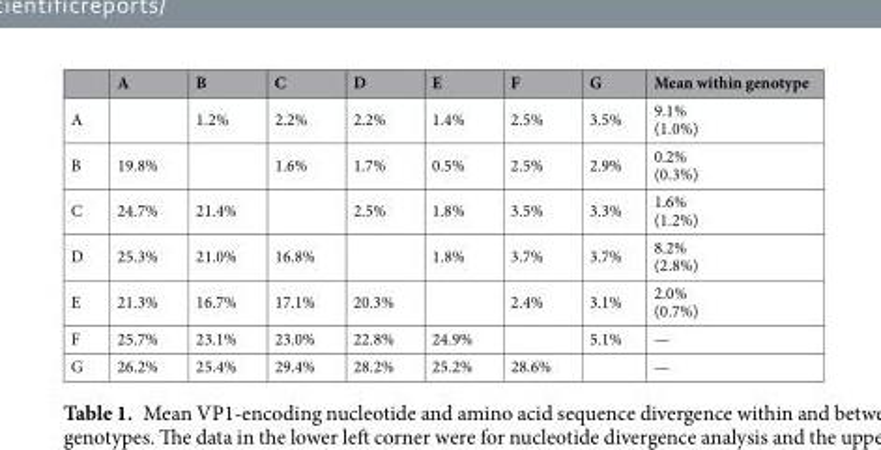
<table><thead><tr><td></td><td>A</td><td>B</td><td>C</td><td>D</td><td>E</td><td>F</td><td>G</td><td>Mean within genotype</td></tr></thead><tbody><tr><td>A</td><td></td><td>1.2%</td><td>2.2%</td><td>2.2%</td><td>1.4%</td><td>2.5%</td><td>3.5%</td><td>9.1% (1.0%)</td></tr><tr><td>B</td><td>19.8%</td><td></td><td>1.6%</td><td>1.7%</td><td>0.5%</td><td>2.5%</td><td>2.9%</td><td>0.2% (0.3%)</td></tr><tr><td>C</td><td>24.7%</td><td>21.4%</td><td></td><td>2.5%</td><td>1.8%</td><td>3.5%</td><td>3.3%</td><td>1.6% (1.2%)</td></tr><tr><td>D</td><td>25.3%</td><td>21.0%</td><td>16.8%</td><td></td><td>1.8%</td><td>3.7%</td><td>3.7%</td><td>8.2% (2.8%)</td></tr><tr><td>E</td><td>21.3%</td><td>16.7%</td><td>17.1%</td><td>20.3%</td><td></td><td>2.4%</td><td>3.1%</td><td>2.0% (0.7%)</td></tr><tr><td>F</td><td>25.7%</td><td>23.1%</td><td>23.0%</td><td>22.8%</td><td>24.9%</td><td></td><td>5.1%</td><td>—</td></tr><tr><td>G</td><td>26.2%</td><td>25.4%</td><td>29.4%</td><td>28.2%</td><td>25.2%</td><td>28.6%</td><td></td><td>—</td></tr></tbody></table>